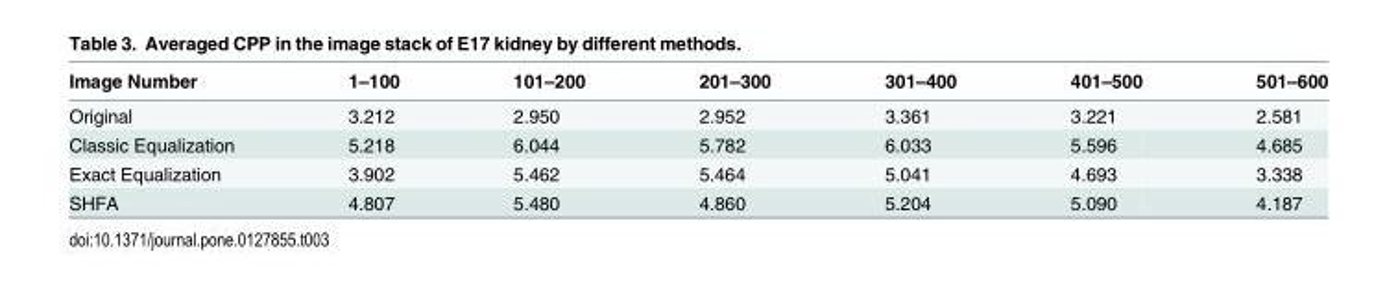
<table><thead><tr><td>Image Number</td><td>1–100</td><td>101–200</td><td>201–300</td><td>301–400</td><td>401–500</td><td>501–600</td></tr></thead><tbody><tr><td>Original</td><td>3.212</td><td>2.950</td><td>2.952</td><td>3.361</td><td>3.221</td><td>2.581</td></tr><tr><td>Classic Equalization</td><td>5.218</td><td>6.044</td><td>5.782</td><td>6.033</td><td>5.596</td><td>4.685</td></tr><tr><td>Exact Equalization</td><td>3.902</td><td>5.462</td><td>5.464</td><td>5.041</td><td>4.693</td><td>3.338</td></tr><tr><td>SHFA</td><td>4.807</td><td>5.480</td><td>4.860</td><td>5.204</td><td>5.090</td><td>4.187</td></tr></tbody></table>